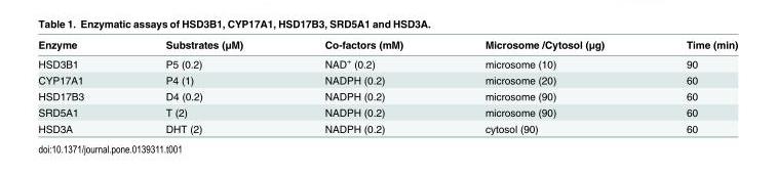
<table><thead><tr><td>Enzyme</td><td>Substrates (μM)</td><td>Co-factors (mM)</td><td>Microsome /Cytosol (μg)</td><td>Time (min)</td></tr></thead><tbody><tr><td>HSD3B1</td><td>P5 (0.2)</td><td>NAD<sup>+</sup> (0.2)</td><td>microsome (10)</td><td>90</td></tr><tr><td>CYP17A1</td><td>P4 (1)</td><td>NADPH (0.2)</td><td>microsome (20)</td><td>60</td></tr><tr><td>HSD17B3</td><td>D4 (0.2)</td><td>NADPH (0.2)</td><td>microsome (90)</td><td>60</td></tr><tr><td>SRD5A1</td><td>T (2)</td><td>NADPH (0.2)</td><td>microsome (90)</td><td>60</td></tr><tr><td>HSD3A</td><td>DHT (2)</td><td>NADPH (0.2)</td><td>cytosol (90)</td><td>60</td></tr></tbody></table>